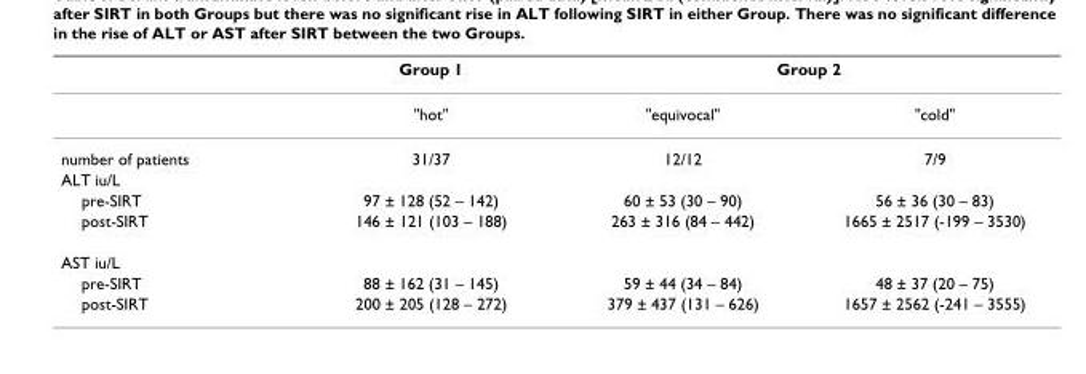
<table><thead><tr><td rowspan="2"></td><td rowspan="2">Group 1 &quot;hot&quot;</td><td colspan="2">Group 2</td></tr><tr><td>&quot;equivocal&quot;</td><td>&quot;cold&quot;</td></tr></thead><tbody><tr><td>number of patients</td><td>31/37</td><td>12/12</td><td>7/9</td></tr><tr><td colspan="4">ALT iu/L</td></tr><tr><td>pre-SIRT</td><td>97 ± 128 (52 – 142)</td><td>60 ± 53 (30 – 90)</td><td>56 ± 36 (30 – 83)</td></tr><tr><td>post-SIRT</td><td>146 ± 121 (103 – 188)</td><td>263 ± 316 (84 – 442)</td><td>1665 ± 2517 (-199 – 3530)</td></tr><tr><td colspan="4">AST iu/L</td></tr><tr><td>pre-SIRT</td><td>88 ± 162 (31 – 145)</td><td>59 ± 44 (34 – 84)</td><td>48 ± 37 (20 – 75)</td></tr><tr><td>post-SIRT</td><td>200 ± 205 (128 – 272)</td><td>379 ± 437 (131 – 626)</td><td>1657 ± 2562 (-241 – 3555)</td></tr></tbody></table>